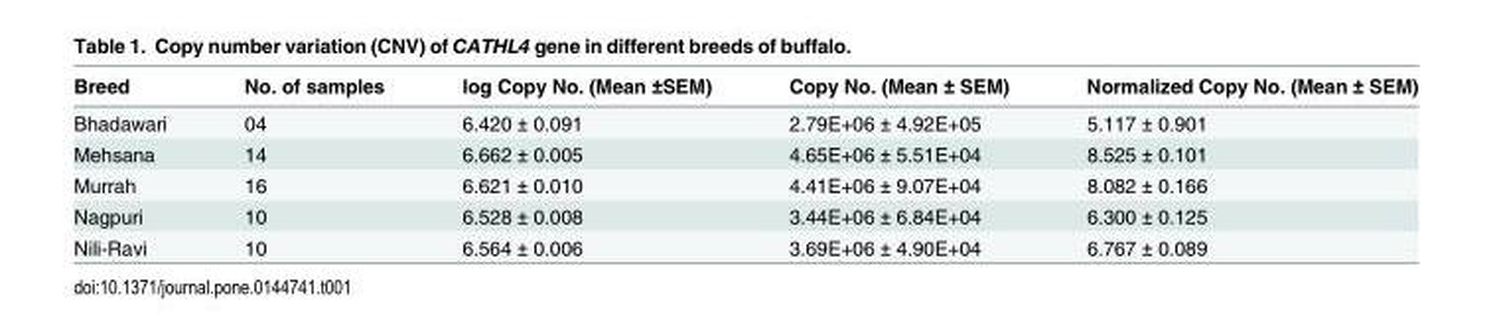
<table><thead><tr><td>Breed</td><td>No. of samples</td><td>log Copy No. (Mean ±SEM)</td><td>Copy No. (Mean ± SEM)</td><td>Normalized Copy No. (Mean ± SEM)</td></tr></thead><tbody><tr><td>Bhadawari</td><td>04</td><td>6.420 ± 0.091</td><td>2.79E+06 ± 4.92E+05</td><td>5.117 ± 0.901</td></tr><tr><td>Mehsana</td><td>14</td><td>6.662 ± 0.005</td><td>4.65E+06 ± 5.51E+04</td><td>8.525 ± 0.101</td></tr><tr><td>Murrah</td><td>16</td><td>6.621 ± 0.010</td><td>4.41E+06 ± 9.07E+04</td><td>8.082 ± 0.166</td></tr><tr><td>Nagpuri</td><td>10</td><td>6.528 ± 0.008</td><td>3.44E+06 ± 6.84E+04</td><td>6.300 ± 0.125</td></tr><tr><td>Nili-Ravi</td><td>10</td><td>6.564 ± 0.006</td><td>3.69E+06 ± 4.90E+04</td><td>6.767 ± 0.089</td></tr></tbody></table>